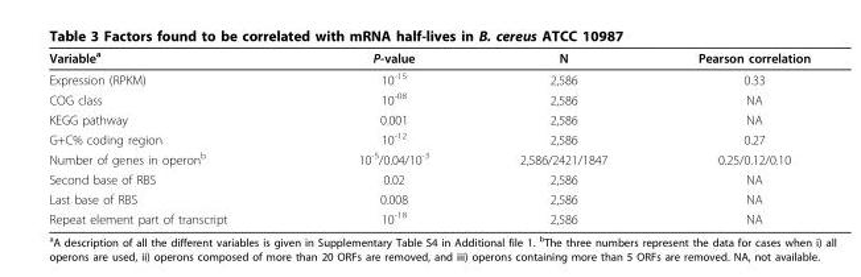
<table><thead><tr><td>Variable<sup>a</sup></td><td>P-value</td><td>N</td><td>Pearson correlation</td></tr></thead><tbody><tr><td>Expression (RPKM)</td><td>10<sup>-15</sup></td><td>2,586</td><td>0.33</td></tr><tr><td>COG class</td><td>10<sup>-08</sup></td><td>2,586</td><td>NA</td></tr><tr><td>KEGG pathway</td><td>0.001</td><td>2,586</td><td>NA</td></tr><tr><td>G+C% coding region</td><td>10<sup>-12</sup></td><td>2,586</td><td>0.27</td></tr><tr><td>Number of genes in operon<sup>b</sup></td><td>10<sup>-5</sup>/0.04/10<sup>-3</sup></td><td>2,586/2421/1847</td><td>0.25/0.12/0.10</td></tr><tr><td>Second base of RBS</td><td>0.02</td><td>2,586</td><td>NA</td></tr><tr><td>Last base of RBS</td><td>0.008</td><td>2,586</td><td>NA</td></tr><tr><td>Repeat element part of transcript</td><td>10<sup>-18</sup></td><td>2,586</td><td>NA</td></tr></tbody></table>